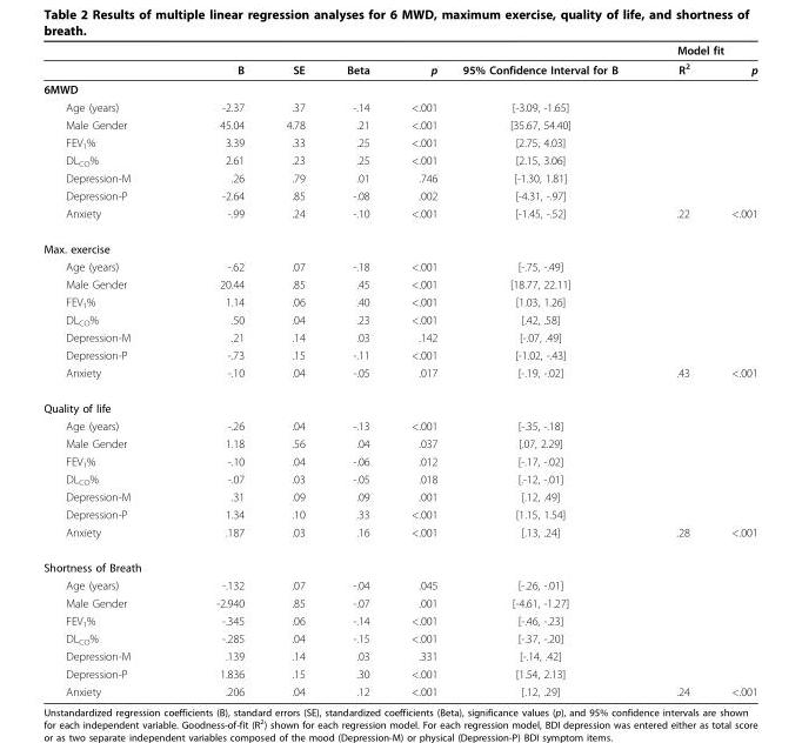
<table><thead><tr><td rowspan="2"></td><td rowspan="2">B</td><td rowspan="2">SE</td><td rowspan="2">Beta</td><td rowspan="2">p</td><td rowspan="2">95% Confidence Interval for B</td><td colspan="2">Model fit</td></tr><tr><td>R<sup>2</sup></td><td>p</td></tr></thead><tbody><tr><td colspan="8">6MWD</td></tr><tr><td>Age (years)</td><td>-2.37</td><td>.37</td><td>-.14</td><td>&lt;.001</td><td>[-3.09, -1.65]</td><td></td><td></td></tr><tr><td>Male Gender</td><td>45.04</td><td>4.78</td><td>.21</td><td>&lt;.001</td><td>[35.67, 54.40]</td><td></td><td></td></tr><tr><td>FEV<sub>1</sub>%</td><td>3.39</td><td>.33</td><td>.25</td><td>&lt;.001</td><td>[2.75, 4.03]</td><td></td><td></td></tr><tr><td>DL<sub>CO</sub>%</td><td>2.61</td><td>.23</td><td>.25</td><td>&lt;.001</td><td>[2.15, 3.06]</td><td></td><td></td></tr><tr><td>Depression-M</td><td>.26</td><td>.79</td><td>.01</td><td>.746</td><td>[-1.30, 1.81]</td><td></td><td></td></tr><tr><td>Depression-P</td><td>-2.64</td><td>.85</td><td>-.08</td><td>.002</td><td>[-4.31, -.97]</td><td></td><td></td></tr><tr><td>Anxiety</td><td>-.99</td><td>.24</td><td>-.10</td><td>&lt;.001</td><td>[-1.45, -.52]</td><td>.22</td><td>&lt;.001</td></tr><tr><td colspan="8">Max. exercise</td></tr><tr><td>Age (years)</td><td>-.62</td><td>.07</td><td>-.18</td><td>&lt;.001</td><td>[-.75, -.49]</td><td></td><td></td></tr><tr><td>Male Gender</td><td>20.44</td><td>.85</td><td>.45</td><td>&lt;.001</td><td>[18.77, 22.11]</td><td></td><td></td></tr><tr><td>FEV<sub>1</sub>%</td><td>1.14</td><td>.06</td><td>.40</td><td>&lt;.001</td><td>[1.03, 1.26]</td><td></td><td></td></tr><tr><td>DL<sub>CO</sub>%</td><td>.50</td><td>.04</td><td>.23</td><td>&lt;.001</td><td>[.42, .58]</td><td></td><td></td></tr><tr><td>Depression-M</td><td>.21</td><td>.14</td><td>.03</td><td>.142</td><td>[-.07, .49]</td><td></td><td></td></tr><tr><td>Depression-P</td><td>-.73</td><td>.15</td><td>-.11</td><td>&lt;.001</td><td>[-1.02, -.43]</td><td></td><td></td></tr><tr><td>Anxiety</td><td>-.10</td><td>.04</td><td>-.05</td><td>.017</td><td>[-.19, -.02]</td><td>.43</td><td>&lt;.001</td></tr><tr><td colspan="8">Quality of life</td></tr><tr><td>Age (years)</td><td>-.26</td><td>.04</td><td>-.13</td><td>&lt;.001</td><td>[-.35, -.18]</td><td></td><td></td></tr><tr><td>Male Gender</td><td>1.18</td><td>.56</td><td>.04</td><td>.037</td><td>[.07, 2.29]</td><td></td><td></td></tr><tr><td>FEV<sub>1</sub>%</td><td>-.10</td><td>.04</td><td>-.06</td><td>.012</td><td>[-.17, -.02]</td><td></td><td></td></tr><tr><td>DL<sub>CO</sub>%</td><td>-.07</td><td>.03</td><td>-.05</td><td>.018</td><td>[.-12, -.01]</td><td></td><td></td></tr><tr><td>Depression-M</td><td>.31</td><td>.09</td><td>.09</td><td>.001</td><td>[.12, .49]</td><td></td><td></td></tr><tr><td>Depression-P</td><td>1.34</td><td>.10</td><td>.33</td><td>&lt;.001</td><td>[1.15, 1.54]</td><td></td><td></td></tr><tr><td>Anxiety</td><td>.187</td><td>.03</td><td>.16</td><td>&lt;.001</td><td>[.13, .24]</td><td>.28</td><td>&lt;.001</td></tr><tr><td colspan="8">Shortness of Breath</td></tr><tr><td>Age (years)</td><td>-.132</td><td>.07</td><td>-.04</td><td>.045</td><td>[-.26, -.01]</td><td></td><td></td></tr><tr><td>Male Gender</td><td>-2.940</td><td>.85</td><td>-.07</td><td>.001</td><td>[-4.61, -1.27]</td><td></td><td></td></tr><tr><td>FEV<sub>1</sub>%</td><td>-.345</td><td>.06</td><td>-.14</td><td>&lt;.001</td><td>[-.46, -.23]</td><td></td><td></td></tr><tr><td>DL<sub>CO</sub>%</td><td>-.285</td><td>.04</td><td>-.15</td><td>&lt;.001</td><td>[-.37, -.20]</td><td></td><td></td></tr><tr><td>Depression-M</td><td>.139</td><td>.14</td><td>.03</td><td>.331</td><td>[-.14, .42]</td><td></td><td></td></tr><tr><td>Depression-P</td><td>1.836</td><td>.15</td><td>.30</td><td>&lt;.001</td><td>[1.54, 2.13]</td><td></td><td></td></tr><tr><td>Anxiety</td><td>.206</td><td>.04</td><td>.12</td><td>&lt;.001</td><td>[.12, .29]</td><td>.24</td><td>&lt;.001</td></tr></tbody></table>